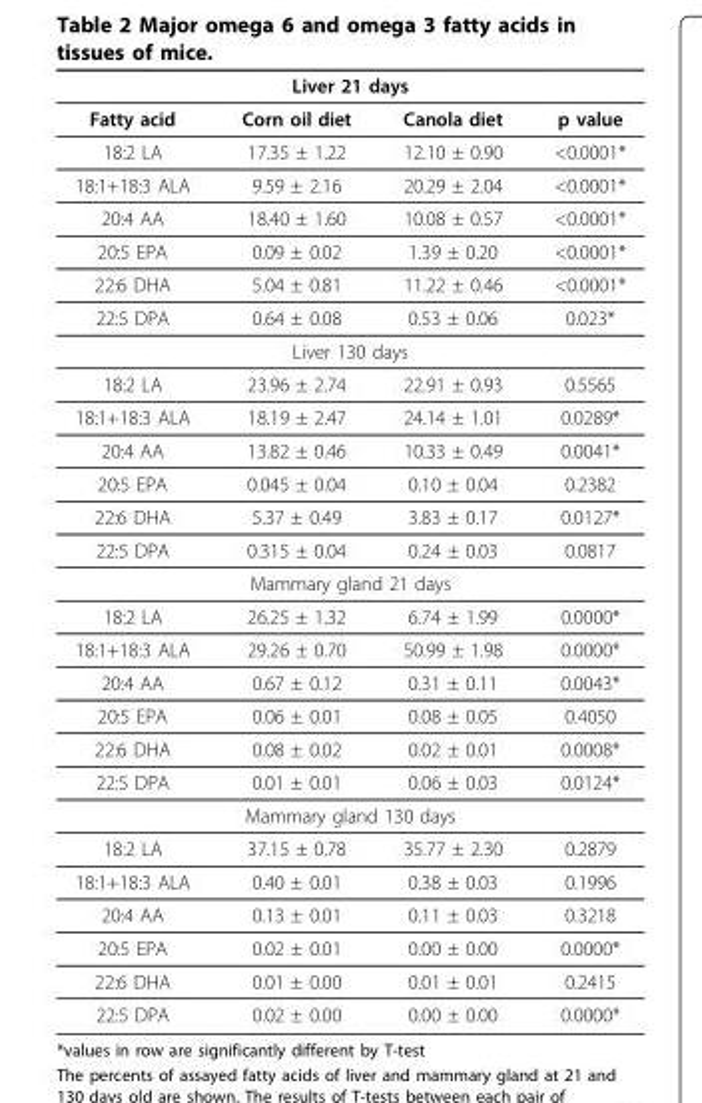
<table><thead><tr><td colspan="4">Liver 21 days</td></tr><tr><td>Fatty acid</td><td>Corn oil diet</td><td>Canola diet</td><td>p value</td></tr></thead><tbody><tr><td>18:2 LA</td><td>17.35 ± 1.22</td><td>12.10 ± 0.90</td><td>&lt;0.0001*</td></tr><tr><td>18:1+18:3 ALA</td><td>9.59 ± 2.16</td><td>20.29 ± 2.04</td><td>&lt;0.0001*</td></tr><tr><td>20:4 AA</td><td>18.40 ± 1.60</td><td>10.08 ± 0.57</td><td>&lt;0.0001*</td></tr><tr><td>20:5 EPA</td><td>0.09 ± 0.02</td><td>1.39 ± 0.20</td><td>&lt;0.0001*</td></tr><tr><td>22:6 DHA</td><td>5.04 ± 0.81</td><td>11.22 ± 0.46</td><td>&lt;0.0001*</td></tr><tr><td>22:5 DPA</td><td>0.64 ± 0.08</td><td>0.53 ± 0.06</td><td>0.023*</td></tr><tr><td colspan="4">Liver 130 days</td></tr><tr><td>18:2 LA</td><td>23.96 ± 2.74</td><td>22.91 ± 0.93</td><td>0.5565</td></tr><tr><td>18:1+18:3 ALA</td><td>18.19 ± 2.47</td><td>24.14 ± 1.01</td><td>0.0289*</td></tr><tr><td>20:4 AA</td><td>13.82 ± 0.46</td><td>10.33 ± 0.49</td><td>0.0041*</td></tr><tr><td>20:5 EPA</td><td>0.045 ± 0.04</td><td>0.10 ± 0.04</td><td>0.2382</td></tr><tr><td>22:6 DHA</td><td>5.37 ± 0.49</td><td>3.83 ± 0.17</td><td>0.0127*</td></tr><tr><td>22:5 DPA</td><td>0.315 ± 0.04</td><td>0.24 ± 0.03</td><td>0.0817</td></tr><tr><td colspan="4">Mammary gland 21 days</td></tr><tr><td>18:2 LA</td><td>26.25 ± 1.32</td><td>6.74 ± 1.99</td><td>0.0000*</td></tr><tr><td>18:1+18:3 ALA</td><td>29.26 ± 0.70</td><td>50.99 ± 1.98</td><td>0.0000*</td></tr><tr><td>20:4 AA</td><td>0.67 ± 0.12</td><td>0.31 ± 0.11</td><td>0.0043*</td></tr><tr><td>20:5 EPA</td><td>0.06 ± 0.01</td><td>0.08 ± 0.05</td><td>0.4050</td></tr><tr><td>22:6 DHA</td><td>0.08 ± 0.02</td><td>0.02 ± 0.01</td><td>0.0008*</td></tr><tr><td>22:5 DPA</td><td>0.01 ± 0.01</td><td>0.06 ± 0.03</td><td>0.0124*</td></tr><tr><td colspan="4">Mammary gland 130 days</td></tr><tr><td>18:2 LA</td><td>37.15 ± 0.78</td><td>35.77 ± 2.30</td><td>0.2879</td></tr><tr><td>18:1+18:3 ALA</td><td>0.40 ± 0.01</td><td>0.38 ± 0.03</td><td>0.1996</td></tr><tr><td>20:4 AA</td><td>0.13 ± 0.01</td><td>0.11 ± 0.03</td><td>0.3218</td></tr><tr><td>20:5 EPA</td><td>0.02 ± 0.01</td><td>0.00 ± 0.00</td><td>0.0000*</td></tr><tr><td>22:6 DHA</td><td>0.01 ± 0.00</td><td>0.01 ± 0.01</td><td>0.2415</td></tr><tr><td>22:5 DPA</td><td>0.02 ± 0.00</td><td>0.00 ± 0.00</td><td>0.0000*</td></tr></tbody></table>